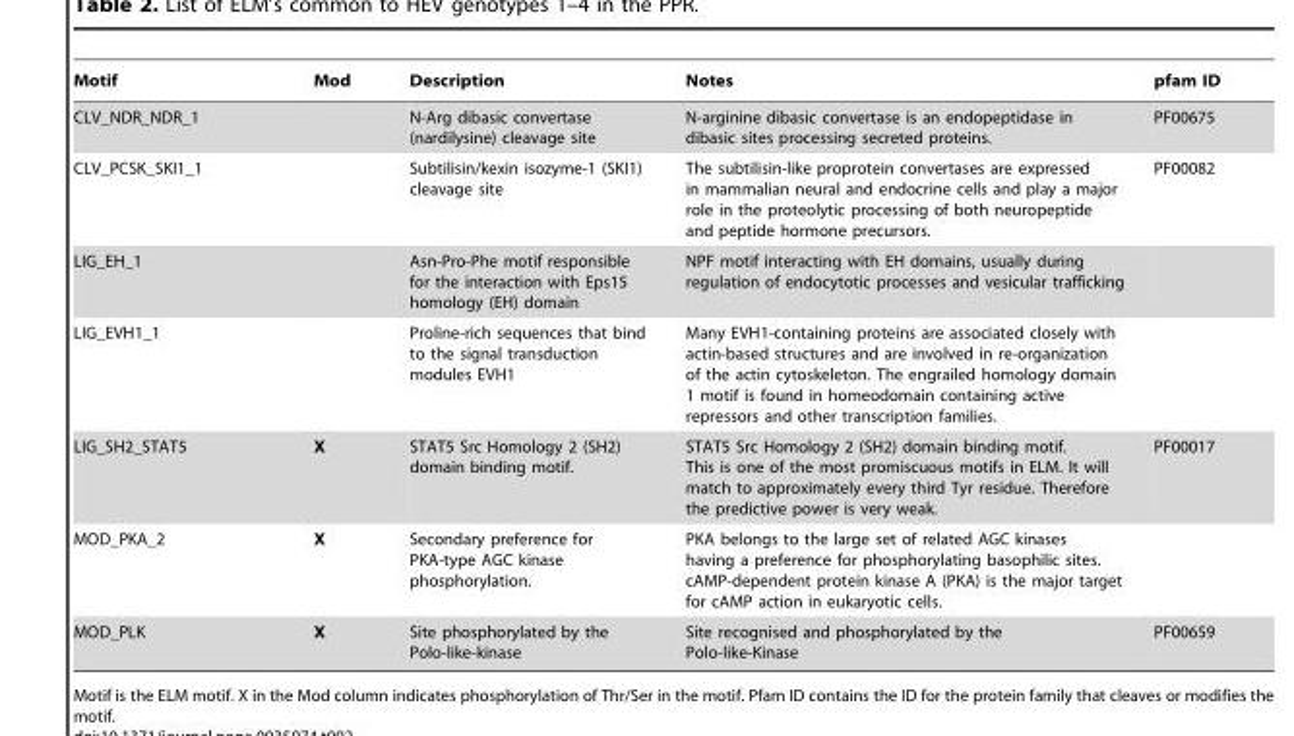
<table><thead><tr><td>Motif</td><td>Mod</td><td>Description</td><td>Notes</td><td>pfam ID</td></tr></thead><tbody><tr><td>CLV_NDR_NDR_1</td><td></td><td>N-Arg dibasic convertase (nardilysine) cleavage site</td><td>N-arginine dibasic convertase is an endopeptidase in dibasic sites processing secreted proteins.</td><td>PF00675</td></tr><tr><td>CLV_PCSK_SKI1_1</td><td></td><td>Subtilisin/kexin isozyme-1 (SKI1) cleavage site</td><td>The subtilisin-like proprotein convertases are expressed in mammalian neural and endocrine cells and play a major role in the proteolytic processing of both neuropeptide and peptide hormone precursors.</td><td>PF00082</td></tr><tr><td>LIG_EH_1</td><td></td><td>Asn-Pro-Phe motif responsible for the interaction with Eps15 homology (EH) domain</td><td>NPF motif interacting with EH domains, usually during regulation of endocytotic processes and vesicular trafficking</td><td></td></tr><tr><td>LIG_EVH1_1</td><td></td><td>Proline-rich sequences that bind to the signal transduction modules EVH1</td><td>Many EVH1-containing proteins are associated closely with actin-based structures and are involved in re-organization of the actin cytoskeleton. The engrailed homology domain 1 motif is found in homeodomain containing active repressors and other transcription families.</td><td></td></tr><tr><td>LIG_SH2_STAT5</td><td>X</td><td>STAT5 Src Homology 2 (SH2) domain binding motif.</td><td>STAT5 Src Homology 2 (SH2) domain binding motif. This is one of the most promiscuous motifs in ELM. It will match to approximately every third Tyr residue. Therefore the predictive power is very weak.</td><td>PF00017</td></tr><tr><td>MOD_PKA_2</td><td>X</td><td>Secondary preference for PKA-type AGC kinase phosphorylation.</td><td>PKA belongs to the large set of related AGC kinases having a preference for phosphorylating basophilic sites. cAMP-dependent protein kinase A (PKA) is the major target for cAMP action in eukaryotic cells.</td><td></td></tr><tr><td>MOD_PLK</td><td>X</td><td>Site phosphorylated by the Polo-like-kinase</td><td>Site recognised and phosphorylated by the Polo-like-Kinase</td><td>PF00659</td></tr></tbody></table>